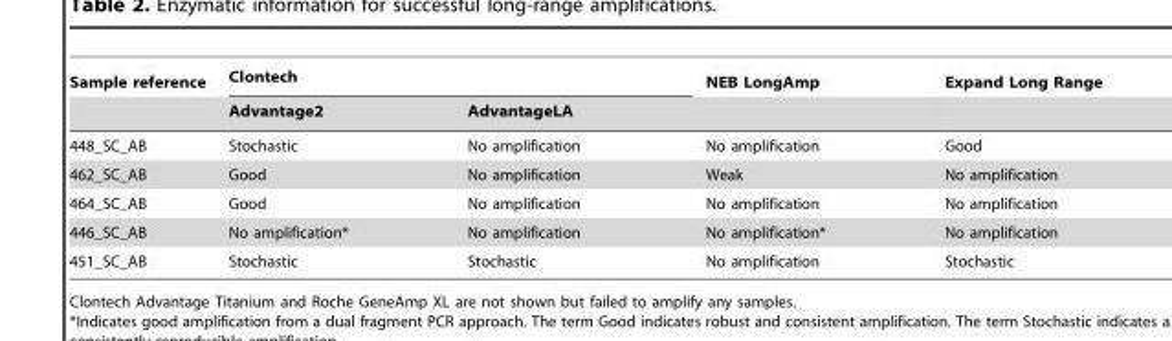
<table><thead><tr><td rowspan="2">Sample reference</td><td colspan="2">Clontech</td><td rowspan="2">NEB LongAmp</td><td rowspan="2">Expand Long Range</td></tr><tr><td>Advantage2</td><td>AdvantageLA</td></tr></thead><tbody><tr><td>448_SC_AB</td><td>Stochastic</td><td>No amplification</td><td>No amplification</td><td>Good</td></tr><tr><td>462_SC_AB</td><td>Good</td><td>No amplification</td><td>Weak</td><td>No amplification</td></tr><tr><td>464_SC_AB</td><td>Good</td><td>No amplification</td><td>No amplification</td><td>No amplification</td></tr><tr><td>446_SC_AB</td><td>No amplification*</td><td>No amplification</td><td>No amplification*</td><td>No amplification</td></tr><tr><td>451_SC_AB</td><td>Stochastic</td><td>Stochastic</td><td>No amplification</td><td>Stochastic</td></tr></tbody></table>